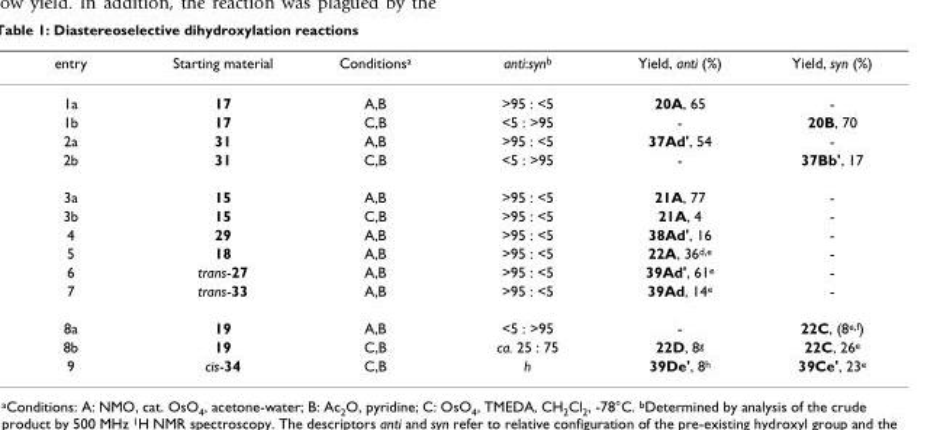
<table><thead><tr><td>entry</td><td>Starting material</td><td>Conditions<sup>a</sup></td><td>anti:syn<sup>b</sup></td><td>Yield, anti (%)</td><td>Yield, syn (%)</td></tr></thead><tbody><tr><td>1a</td><td>17</td><td>A,B</td><td>&gt;95 : &lt;5</td><td>20A, 65</td><td>-</td></tr><tr><td>1b</td><td>17</td><td>C,B</td><td>&lt;5 : &gt;95</td><td>-</td><td>20B, 70</td></tr><tr><td>2a</td><td>31</td><td>A,B</td><td>&gt;95 : &lt;5</td><td>37Ad&#x27;, 54</td><td>-</td></tr><tr><td>2b</td><td>31</td><td>C,B</td><td>&lt;5 : &gt;95</td><td>-</td><td>37Bb&#x27;, 17</td></tr><tr><td>3a</td><td>15</td><td>A,B</td><td>&gt;95 : &lt;5</td><td>21A, 77</td><td>-</td></tr><tr><td>3b</td><td>15</td><td>C,B</td><td>&gt;95 : &lt;5</td><td>21A, 4</td><td>-</td></tr><tr><td>4</td><td>29</td><td>A,B</td><td>&gt;95 : &lt;5</td><td>38Ad&#x27;, 16</td><td>-</td></tr><tr><td>5</td><td>18</td><td>A,B</td><td>&gt;95 : &lt;5</td><td>22A, 36<sup>d,e</sup></td><td>-</td></tr><tr><td>6</td><td>trans-27</td><td>A,B</td><td>&gt;95 : &lt;5</td><td>39Ad&#x27;, 61<sup>e</sup></td><td>-</td></tr><tr><td>7</td><td>trans-33</td><td>A,B</td><td>&gt;95 : &lt;5</td><td>39Ad, 14<sup>e</sup></td><td>-</td></tr><tr><td>8a</td><td>19</td><td>A,B</td><td>&lt;5 : &gt;95</td><td>-</td><td>22C, (8<sup>e,f</sup>)</td></tr><tr><td>8b</td><td>19</td><td>C,B</td><td>ca. 25 : 75</td><td>22D, 8<sup>g</sup></td><td>22C, 26<sup>e</sup></td></tr><tr><td>9</td><td>cis-34</td><td>C,B</td><td>h</td><td>39De&#x27;, 8<sup>h</sup></td><td>39Ce&#x27;, 23<sup>e</sup></td></tr></tbody></table>